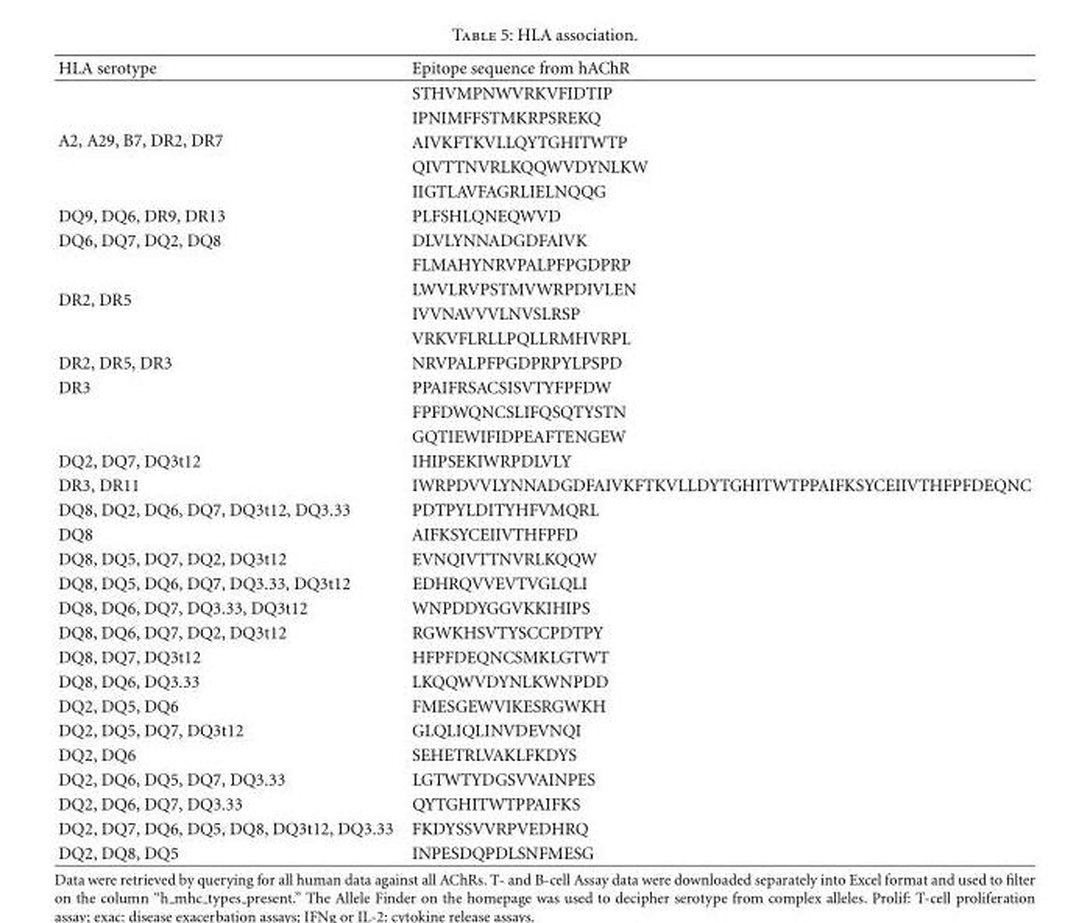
<table><thead><tr><td>HLA serotype</td><td>Epitope sequence from hAChR</td></tr></thead><tbody><tr><td rowspan="5">A2, A29, B7, DR2, DR7</td><td>STHVMPNWVRKVFIDTIP</td></tr><tr><td>IPNIMFFSTMKRPSREKQ</td></tr><tr><td>AIVKFTKVLLQYTGHITWTP</td></tr><tr><td>QIVTTNVRLKQQWVDYNLKW</td></tr><tr><td>IIGTLAVFAGRLIELNQQG</td></tr><tr><td>DQ9, DQ6, DR9, DR13</td><td>PLFSHLQNEQWVD</td></tr><tr><td>DQ6, DQ7, DQ2, DQ8</td><td>DLVLYNNADGDFAIVK</td></tr><tr><td rowspan="4">DR2, DR5</td><td>FLMAHYNRVPALPFPGDPRP</td></tr><tr><td>LWVLRVPSTMVWRPDIVLEN</td></tr><tr><td>IVVNAVVVLNVSLRSP</td></tr><tr><td>VRKVFLRLLPQLLRMHVRPL</td></tr><tr><td>DR2, DR5, DR3</td><td>NRVPALPFPGDPRPYLPSPD</td></tr><tr><td rowspan="3">DR3</td><td>PPAIFRSACSISVTYFPFDW</td></tr><tr><td>FPFDWQNCSLIFQSQTYSTN</td></tr><tr><td>GQTIEWIFIDPEAFTENGEW</td></tr><tr><td>DQ2, DQ7, DQ3t12</td><td>IHIPSEKIWRPDLVLY</td></tr><tr><td>DR3, DR11</td><td>IWRPDVVLYNNADGDFAIVKFTKVLLDYTGHITWTPPAIFKSYCEIIVTHFPFDEQNC</td></tr><tr><td>DQ8, DQ2, DQ6, DQ7, DQ3t12, DQ3.33</td><td>PDTPYLDITYHFVMQRL</td></tr><tr><td>DQ8</td><td>AIFKSYCEIIVTHFPFD</td></tr><tr><td>DQ8, DQ5, DQ7, DQ2, DQ3t12</td><td>EVNQIVTTNVRLKQQW</td></tr><tr><td>DQ8, DQ5, DQ6, DQ7, DQ3.33, DQ3t12</td><td>EDHRQVVEVTVGLQLI</td></tr><tr><td>DQ8, DQ6, DQ7, DQ3.33, DQ3t12</td><td>WNPDDYGGVKKIHIPS</td></tr><tr><td>DQ8, DQ6, DQ7, DQ2, DQ3t12</td><td>RGWKHSVTYSCCPDTPY</td></tr><tr><td>DQ8, DQ7, DQ3t12</td><td>HFPFDEQNCSMKLGTWT</td></tr><tr><td>DQ8, DQ6, DQ3.33</td><td>LKQQWVDYNLKWNPDD</td></tr><tr><td>DQ2, DQ5, DQ6</td><td>FMESGEWVIKESRGWKH</td></tr><tr><td>DQ2, DQ5, DQ7, DQ3t12</td><td>GLQLIQLINVDEVNQI</td></tr><tr><td>DQ2, DQ6</td><td>SEHETRLVAKLFKDYS</td></tr><tr><td>DQ2, DQ6, DQ5, DQ7, DQ3.33</td><td>LGTWTYDGSVVAINPES</td></tr><tr><td>DQ2, DQ6, DQ7, DQ3.33</td><td>QYTGHITWTPPAIFKS</td></tr><tr><td>DQ2, DQ7, DQ6, DQ5, DQ8, DQ3t12, DQ3.33</td><td>FKDYSSVVRPVEDHRQ</td></tr><tr><td>DQ2, DQ8, DQ5</td><td>INPESDQPDLSNFMESG</td></tr></tbody></table>